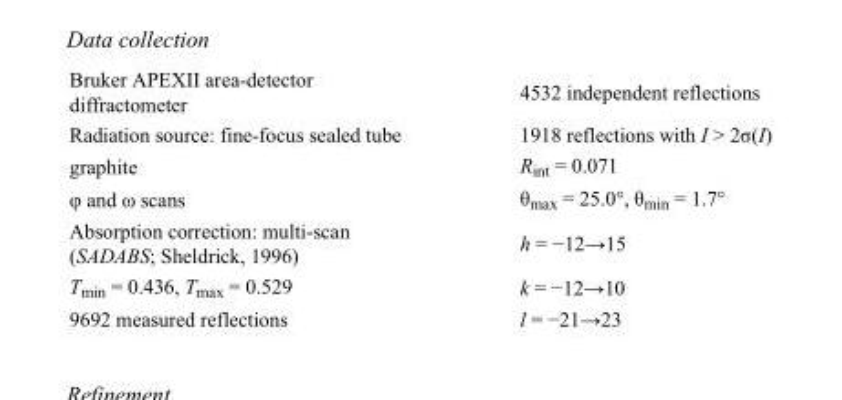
<table><tbody><tr><td>Bruker APEXII area-detector diffractometer</td><td>4532 independent reflections</td></tr><tr><td>Radiation source: fine-focus sealed tube</td><td>1918 reflections with I &gt; 2σ(I)</td></tr><tr><td>graphite</td><td>R<sub>int</sub> = 0.071</td></tr><tr><td>φ and ω scans</td><td>θ<sub>max</sub> = 25.0°, θ<sub>min</sub> = 1.7°</td></tr><tr><td>Absorption correction: multi-scan (SADABS; Sheldrick, 1996)</td><td>h = −12→15</td></tr><tr><td>T<sub>min</sub> = 0.436, T<sub>max</sub> = 0.529</td><td>k = −12→10</td></tr><tr><td>9692 measured reflections</td><td>l = −21→23</td></tr></tbody></table>